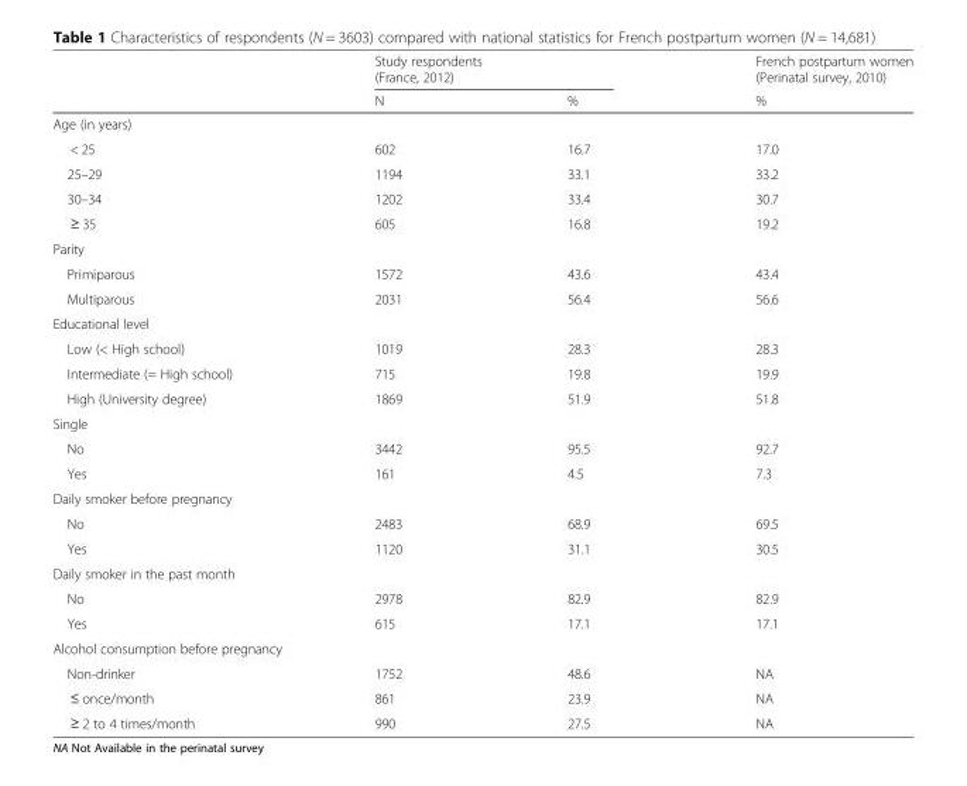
<table><thead><tr><td rowspan="2"></td><td colspan="2">Study respondents (France, 2012)</td><td rowspan="2">French postpartum women (Perinatal survey, 2010) %</td></tr><tr><td>N</td><td>%</td></tr></thead><tbody><tr><td colspan="4">Age (in years)</td></tr><tr><td>&lt; 25</td><td>602</td><td>16.7</td><td>17.0</td></tr><tr><td>25–29</td><td>1194</td><td>33.1</td><td>33.2</td></tr><tr><td>30–34</td><td>1202</td><td>33.4</td><td>30.7</td></tr><tr><td>≥ 35</td><td>605</td><td>16.8</td><td>19.2</td></tr><tr><td colspan="4">Parity</td></tr><tr><td>Primiparous</td><td>1572</td><td>43.6</td><td>43.4</td></tr><tr><td>Multiparous</td><td>2031</td><td>56.4</td><td>56.6</td></tr><tr><td colspan="4">Educational level</td></tr><tr><td>Low (&lt; High school)</td><td>1019</td><td>28.3</td><td>28.3</td></tr><tr><td>Intermediate (= High school)</td><td>715</td><td>19.8</td><td>19.9</td></tr><tr><td>High (University degree)</td><td>1869</td><td>51.9</td><td>51.8</td></tr><tr><td colspan="4">Single</td></tr><tr><td>No</td><td>3442</td><td>95.5</td><td>92.7</td></tr><tr><td>Yes</td><td>161</td><td>4.5</td><td>7.3</td></tr><tr><td colspan="4">Daily smoker before pregnancy</td></tr><tr><td>No</td><td>2483</td><td>68.9</td><td>69.5</td></tr><tr><td>Yes</td><td>1120</td><td>31.1</td><td>30.5</td></tr><tr><td colspan="4">Daily smoker in the past month</td></tr><tr><td>No</td><td>2978</td><td>82.9</td><td>82.9</td></tr><tr><td>Yes</td><td>615</td><td>17.1</td><td>17.1</td></tr><tr><td colspan="4">Alcohol consumption before pregnancy</td></tr><tr><td>Non-drinker</td><td>1752</td><td>48.6</td><td>NA</td></tr><tr><td>≤ once/month</td><td>861</td><td>23.9</td><td>NA</td></tr><tr><td>≥ 2 to 4 times/month</td><td>990</td><td>27.5</td><td>NA</td></tr></tbody></table>